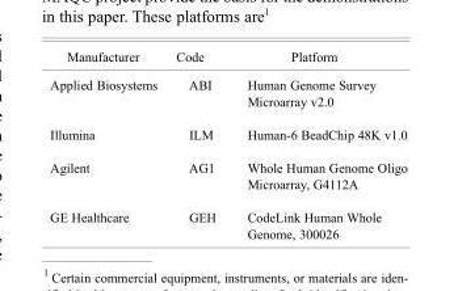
<table><thead><tr><td>Manufacturer</td><td>Code</td><td>Platform</td></tr></thead><tbody><tr><td>Applied Biosystems</td><td>ABI</td><td>Human Genome Survey Microarray v2.0</td></tr><tr><td>Illumina</td><td>ILM</td><td>Human-6 BeadChip 48K v1.0</td></tr><tr><td>Agilent</td><td>AG1</td><td>Whole Human Genome Oligo Microarray, G4112A</td></tr><tr><td>GE Healthcare</td><td>GEH</td><td>CodeLink Human Whole Genome, 300026</td></tr></tbody></table>